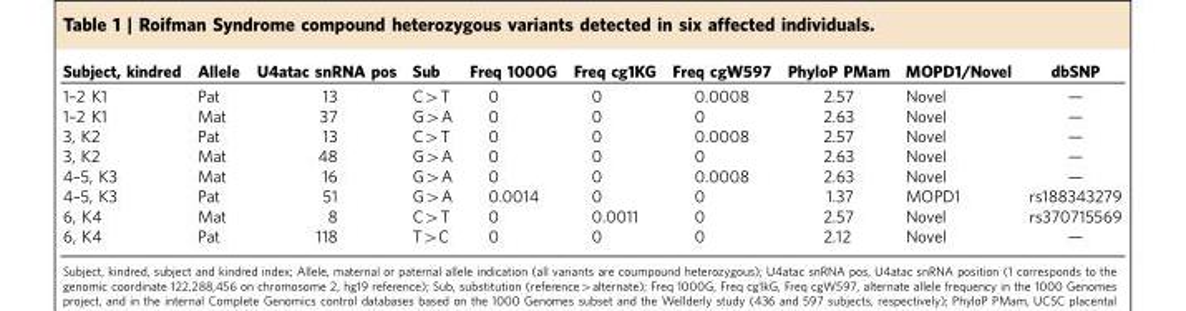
<table><thead><tr><td>Subject, kindred</td><td>Allele</td><td>U4atac snRNA pos</td><td>Sub</td><td>Freq 1000G</td><td>Freq cg1KG</td><td>Freq cgW597</td><td>PhyloP PMam</td><td>MOPD1/Novel</td><td>dbSNP</td></tr></thead><tbody><tr><td>1–2 K1</td><td>Pat</td><td>13</td><td>C&gt;T</td><td>0</td><td>0</td><td>0.0008</td><td>2.57</td><td>Novel</td><td>—</td></tr><tr><td>1–2 K1</td><td>Mat</td><td>37</td><td>G&gt;A</td><td>0</td><td>0</td><td>0</td><td>2.63</td><td>Novel</td><td>—</td></tr><tr><td>3, K2</td><td>Pat</td><td>13</td><td>C&gt;T</td><td>0</td><td>0</td><td>0.0008</td><td>2.57</td><td>Novel</td><td>—</td></tr><tr><td>3, K2</td><td>Mat</td><td>48</td><td>G&gt;A</td><td>0</td><td>0</td><td>0</td><td>2.63</td><td>Novel</td><td>—</td></tr><tr><td>4–5, K3</td><td>Mat</td><td>16</td><td>G&gt;A</td><td>0</td><td>0</td><td>0.0008</td><td>2.63</td><td>Novel</td><td>—</td></tr><tr><td>4–5, K3</td><td>Pat</td><td>51</td><td>G&gt;A</td><td>0.0014</td><td>0</td><td>0</td><td>1.37</td><td>MOPD1</td><td>rs188343279</td></tr><tr><td>6, K4</td><td>Mat</td><td>8</td><td>C&gt;T</td><td>0</td><td>0.0011</td><td>0</td><td>2.57</td><td>Novel</td><td>rs370715569</td></tr><tr><td>6, K4</td><td>Pat</td><td>118</td><td>T&gt;C</td><td>0</td><td>0</td><td>0</td><td>2.12</td><td>Novel</td><td>—</td></tr></tbody></table>